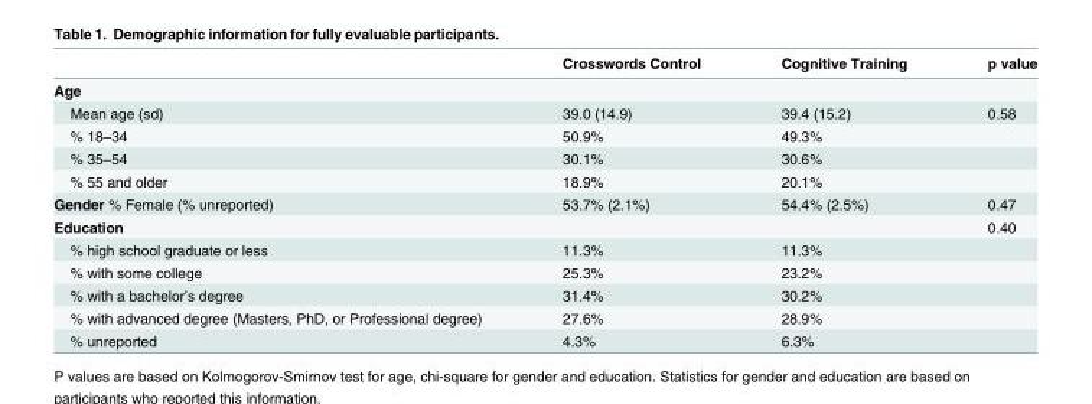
<table><thead><tr><td></td><td>Crosswords Control</td><td>Cognitive Training</td><td>p value</td></tr></thead><tbody><tr><td colspan="4">Age</td></tr><tr><td>Mean age (sd)</td><td>39.0 (14.9)</td><td>39.4 (15.2)</td><td>0.58</td></tr><tr><td>% 18–34</td><td>50.9%</td><td>49.3%</td><td></td></tr><tr><td>% 35–54</td><td>30.1%</td><td>30.6%</td><td></td></tr><tr><td>% 55 and older</td><td>18.9%</td><td>20.1%</td><td></td></tr><tr><td>Gender % Female (% unreported)</td><td>53.7% (2.1%)</td><td>54.4% (2.5%)</td><td>0.47</td></tr><tr><td>Education</td><td></td><td></td><td>0.40</td></tr><tr><td>% high school graduate or less</td><td>11.3%</td><td>11.3%</td><td></td></tr><tr><td>% with some college</td><td>25.3%</td><td>23.2%</td><td></td></tr><tr><td>% with a bachelor’s degree</td><td>31.4%</td><td>30.2%</td><td></td></tr><tr><td>% with advanced degree (Masters, PhD, or Professional degree)</td><td>27.6%</td><td>28.9%</td><td></td></tr><tr><td>% unreported</td><td>4.3%</td><td>6.3%</td><td></td></tr></tbody></table>